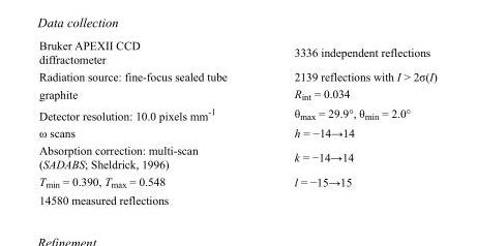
<table><tbody><tr><td>Bruker APEXII CCD diffractometer</td><td>3336 independent reflections</td></tr><tr><td>Radiation source: fine-focus sealed tube</td><td>2139 reflections with I &gt; 2σ(I)</td></tr><tr><td>graphite</td><td>R<sub>int</sub> = 0.034</td></tr><tr><td>Detector resolution: 10.0 pixels mm<sup>-1</sup></td><td>θ<sub>max</sub> = 29.9°, θ<sub>min</sub> = 2.0°</td></tr><tr><td>ω scans</td><td>h = −14→14</td></tr><tr><td>Absorption correction: multi-scan (SADABS; Sheldrick, 1996)</td><td>k = −14→14</td></tr><tr><td>T<sub>min</sub> = 0.390, T<sub>max</sub> = 0.548</td><td>l = −15→15</td></tr><tr><td>14580 measured reflections</td><td></td></tr></tbody></table>